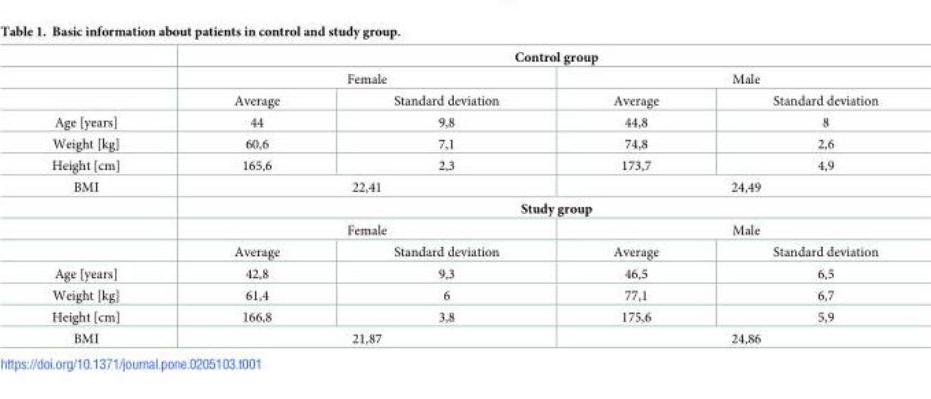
<table><thead><tr><td rowspan="3"></td><td colspan="4">Control group</td></tr><tr><td colspan="2">Female</td><td colspan="2">Male</td></tr><tr><td>Average</td><td>Standard deviation</td><td>Average</td><td>Standard deviation</td></tr></thead><tbody><tr><td>Age [years]</td><td>44</td><td>9,8</td><td>44,8</td><td>8</td></tr><tr><td>Weight [kg]</td><td>60,6</td><td>7,1</td><td>74,8</td><td>2,6</td></tr><tr><td>Height [cm]</td><td>165,6</td><td>2,3</td><td>173,7</td><td>4,9</td></tr><tr><td rowspan="4">BMI</td><td colspan="2">22,41</td><td colspan="2">24,49</td></tr><tr><td colspan="4">Study group</td></tr><tr><td colspan="2">Female</td><td colspan="2">Male</td></tr><tr><td>Average</td><td>Standard deviation</td><td>Average</td><td>Standard deviation</td></tr><tr><td>Age [years]</td><td>42,8</td><td>9,3</td><td>46,5</td><td>6,5</td></tr><tr><td>Weight [kg]</td><td>61,4</td><td>6</td><td>77,1</td><td>6,7</td></tr><tr><td>Height [cm]</td><td>166,8</td><td>3,8</td><td>175,6</td><td>5,9</td></tr><tr><td>BMI</td><td colspan="2">21,87</td><td colspan="2">24,86</td></tr></tbody></table>